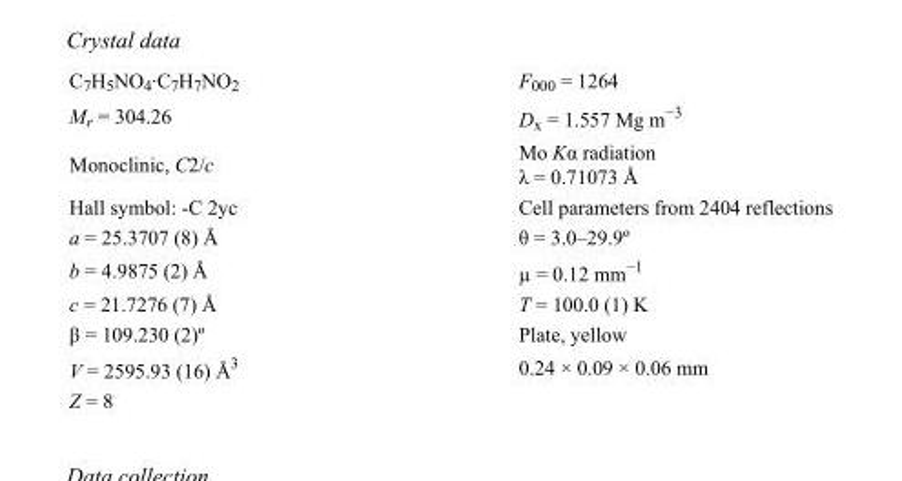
<table><tbody><tr><td>C<sub>7</sub>H<sub>5</sub>NO<sub>4</sub>·C<sub>7</sub>H<sub>7</sub>NO<sub>2</sub></td><td>F<sub>000</sub> = 1264</td></tr><tr><td>M<sub>r</sub> = 304.26</td><td>D<sub>x</sub> = 1.557 Mg m<sup>−3</sup></td></tr><tr><td>Monoclinic, C2/c</td><td>Mo Kα radiation λ = 0.71073 Å</td></tr><tr><td>Hall symbol: -C 2yc</td><td>Cell parameters from 2404 reflections</td></tr><tr><td>a = 25.3707 (8) Å</td><td>θ = 3.0–29.9º</td></tr><tr><td>b = 4.9875 (2) Å</td><td>µ = 0.12 mm<sup>−1</sup></td></tr><tr><td>c = 21.7276 (7) Å</td><td>T = 100.0 (1) K</td></tr><tr><td>β = 109.230 (2)º</td><td>Plate, yellow</td></tr><tr><td>V = 2595.93 (16) Å<sup>3</sup></td><td>0.24 × 0.09 × 0.06 mm</td></tr><tr><td>Z = 8</td><td></td></tr></tbody></table>